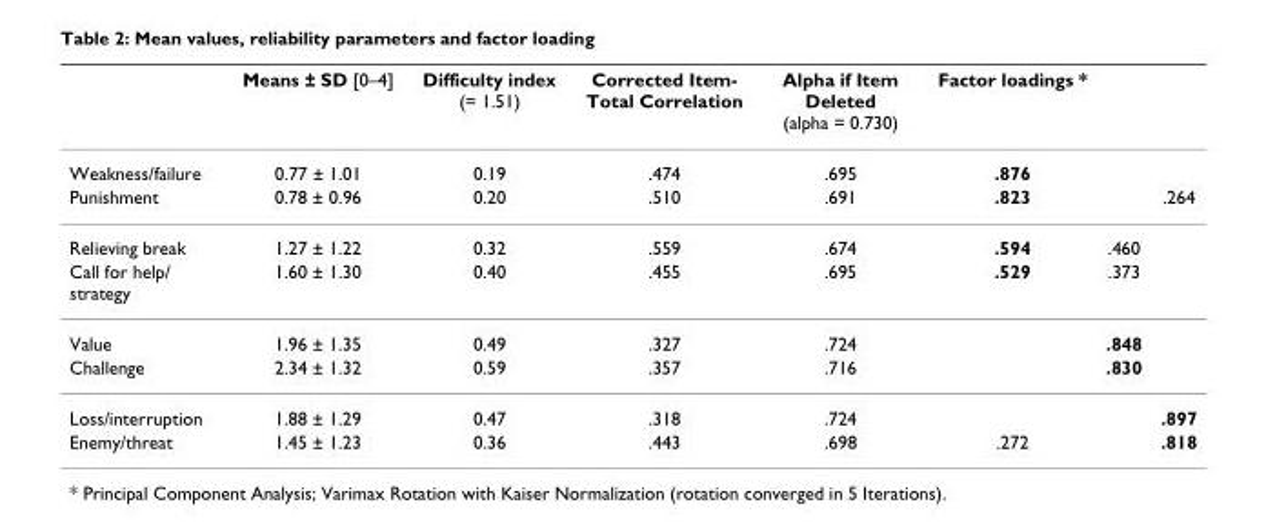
<table><thead><tr><td></td><td>Means ± SD [0–4]</td><td>Difficulty index (= 1.51)</td><td>Corrected Item- Total Correlation</td><td>Alpha if Item Deleted (alpha = 0.730)</td><td>Factor loadings *</td><td></td><td></td></tr></thead><tbody><tr><td>Weakness/failure</td><td>0.77 ± 1.01</td><td>0.19</td><td>.474</td><td>.695</td><td>.876</td><td></td><td></td></tr><tr><td>Punishment</td><td>0.78 ± 0.96</td><td>0.20</td><td>.510</td><td>.691</td><td>.823</td><td></td><td>.264</td></tr><tr><td>Relieving break</td><td>1.27 ± 1.22</td><td>0.32</td><td>.559</td><td>.674</td><td>.594</td><td>.460</td><td></td></tr><tr><td>Call for help/ strategy</td><td>1.60 ± 1.30</td><td>0.40</td><td>.455</td><td>.695</td><td>.529</td><td>.373</td><td></td></tr><tr><td>Value</td><td>1.96 ± 1.35</td><td>0.49</td><td>.327</td><td>.724</td><td></td><td>.848</td><td></td></tr><tr><td>Challenge</td><td>2.34 ± 1.32</td><td>0.59</td><td>.357</td><td>.716</td><td></td><td>.830</td><td></td></tr><tr><td>Loss/interruption</td><td>1.88 ± 1.29</td><td>0.47</td><td>.318</td><td>.724</td><td></td><td></td><td>.897</td></tr><tr><td>Enemy/threat</td><td>1.45 ± 1.23</td><td>0.36</td><td>.443</td><td>.698</td><td>.272</td><td></td><td>.818</td></tr></tbody></table>